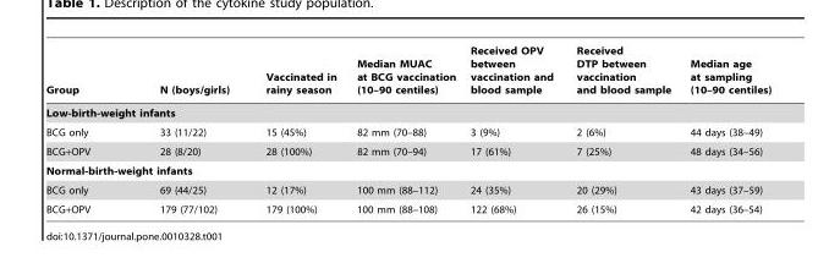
<table><thead><tr><td>Group</td><td>N (boys/girls)</td><td>Vaccinated in rainy season</td><td>Median MUAC at BCG vaccination (10–90 centiles)</td><td>Received OPV between vaccination and blood sample</td><td>Received DTP between vaccination and blood sample</td><td>Median age at sampling (10–90 centiles)</td></tr></thead><tbody><tr><td colspan="7">Low-birth-weight infants</td></tr><tr><td>BCG only</td><td>33 (11/22)</td><td>15 (45%)</td><td>82 mm (70–88)</td><td>3 (9%)</td><td>2 (6%)</td><td>44 days (38–49)</td></tr><tr><td>BCG+OPV</td><td>28 (8/20)</td><td>28 (100%)</td><td>82 mm (70–94)</td><td>17 (61%)</td><td>7 (25%)</td><td>48 days (34–56)</td></tr><tr><td colspan="7">Normal-birth-weight infants</td></tr><tr><td>BCG only</td><td>69 (44/25)</td><td>12 (17%)</td><td>100 mm (88–112)</td><td>24 (35%)</td><td>20 (29%)</td><td>43 days (37–59)</td></tr><tr><td>BCG+OPV</td><td>179 (77/102)</td><td>179 (100%)</td><td>100 mm (88–108)</td><td>122 (68%)</td><td>26 (15%)</td><td>42 days (36–54)</td></tr></tbody></table>